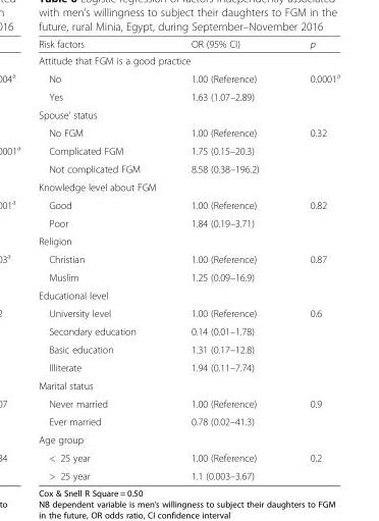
<table><thead><tr><td>Risk factors</td><td>OR (95% CI)</td><td>p</td></tr></thead><tbody><tr><td colspan="3">Attitude that FGM is a good practice</td></tr><tr><td>No</td><td>1.00 (Reference)</td><td>0.0001<sup>a</sup></td></tr><tr><td>Yes</td><td>1.63 (1.07–2.89)</td><td></td></tr><tr><td colspan="3">Spouse’ status</td></tr><tr><td>No FGM</td><td>1.00 (Reference)</td><td>0.32</td></tr><tr><td>Complicated FGM</td><td>1.75 (0.15–20.3)</td><td></td></tr><tr><td>Not complicated FGM</td><td>8.58 (0.38–196.2)</td><td></td></tr><tr><td colspan="3">Knowledge level about FGM</td></tr><tr><td>Good</td><td>1.00 (Reference)</td><td>0.82</td></tr><tr><td>Poor</td><td>1.84 (0.19–3.71)</td><td></td></tr><tr><td colspan="3">Religion</td></tr><tr><td>Christian</td><td>1.00 (Reference)</td><td>0.87</td></tr><tr><td>Muslim</td><td>1.25 (0.09–16.9)</td><td></td></tr><tr><td colspan="3">Educational level</td></tr><tr><td>University level</td><td>1.00 (Reference)</td><td>0.6</td></tr><tr><td>Secondary education</td><td>0.14 (0.01–1.78)</td><td></td></tr><tr><td>Basic education</td><td>1.31 (0.17–12.8)</td><td></td></tr><tr><td>Illiterate</td><td>1.94 (0.11–7.74)</td><td></td></tr><tr><td colspan="3">Marital status</td></tr><tr><td>Never married</td><td>1.00 (Reference)</td><td>0.9</td></tr><tr><td>Ever married</td><td>0.78 (0.02–41.3)</td><td></td></tr><tr><td colspan="3">Age group</td></tr><tr><td>&lt; 25 year</td><td>1.00 (Reference)</td><td>0.2</td></tr><tr><td>&gt; 25 year</td><td>1.1 (0.003–3.67)</td><td></td></tr></tbody></table>